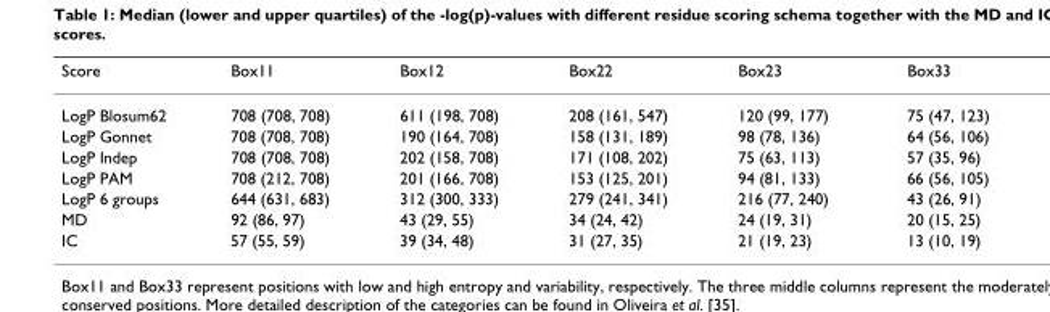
<table><thead><tr><td>Score</td><td>Box11</td><td>Box12</td><td>Box22</td><td>Box23</td><td>Box33</td></tr></thead><tbody><tr><td>LogP Blosum62</td><td>708 (708, 708)</td><td>611 (198, 708)</td><td>208 (161, 547)</td><td>120 (99, 177)</td><td>75 (47, 123)</td></tr><tr><td>LogP Gonnet</td><td>708 (708, 708)</td><td>190 (164, 708)</td><td>158 (131, 189)</td><td>98 (78, 136)</td><td>64 (56, 106)</td></tr><tr><td>LogP Indep</td><td>708 (708, 708)</td><td>202 (158, 708)</td><td>171 (108, 202)</td><td>75 (63, 113)</td><td>57 (35, 96)</td></tr><tr><td>LogP PAM</td><td>708 (212, 708)</td><td>201 (166, 708)</td><td>153 (125, 201)</td><td>94 (81, 133)</td><td>66 (56, 105)</td></tr><tr><td>LogP 6 groups</td><td>644 (631, 683)</td><td>312 (300, 333)</td><td>279 (241, 341)</td><td>216 (77, 240)</td><td>43 (26, 91)</td></tr><tr><td>MD</td><td>92 (86, 97)</td><td>43 (29, 55)</td><td>34 (24, 42)</td><td>24 (19, 31)</td><td>20 (15, 25)</td></tr><tr><td>IC</td><td>57 (55, 59)</td><td>39 (34, 48)</td><td>31 (27, 35)</td><td>21 (19, 23)</td><td>13 (10, 19)</td></tr></tbody></table>